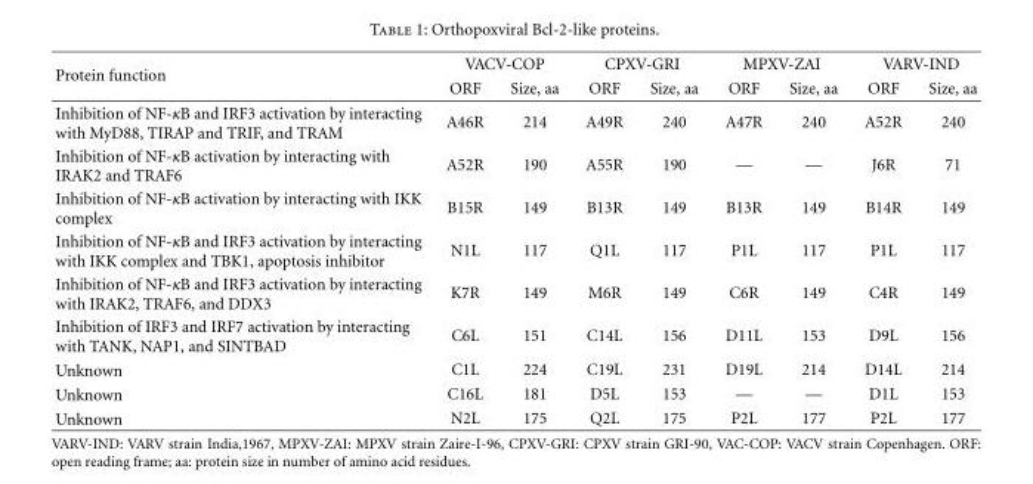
<table><thead><tr><td rowspan="2">Protein function</td><td colspan="2">VACV-COP</td><td colspan="2">CPXV-GRI</td><td colspan="2">MPXV-ZAI</td><td colspan="2">VARV-IND</td></tr><tr><td>ORF</td><td>Size, aa</td><td>ORF</td><td>Size, aa</td><td>ORF</td><td>Size, aa</td><td>ORF</td><td>Size, aa</td></tr></thead><tbody><tr><td>Inhibition of NF-κB and IRF3 activation by interacting with MyD88, TIRAP and TRIF, and TRAM</td><td>A46R</td><td>214</td><td>A49R</td><td>240</td><td>A47R</td><td>240</td><td>A52R</td><td>240</td></tr><tr><td>Inhibition of NF-κB activation by interacting with IRAK2 and TRAF6</td><td>A52R</td><td>190</td><td>A55R</td><td>190</td><td>—</td><td>—</td><td>J6R</td><td>71</td></tr><tr><td>Inhibition of NF-κB activation by interacting with IKK complex</td><td>B15R</td><td>149</td><td>B13R</td><td>149</td><td>B13R</td><td>149</td><td>B14R</td><td>149</td></tr><tr><td>Inhibition of NF-κB and IRF3 activation by interacting with IKK complex and TBK1, apoptosis inhibitor</td><td>N1L</td><td>117</td><td>Q1L</td><td>117</td><td>P1L</td><td>117</td><td>P1L</td><td>117</td></tr><tr><td>Inhibition of NF-κB and IRF3 activation by interacting with IRAK2, TRAF6, and DDX3</td><td>K7R</td><td>149</td><td>M6R</td><td>149</td><td>C6R</td><td>149</td><td>C4R</td><td>149</td></tr><tr><td>Inhibition of IRF3 and IRF7 activation by interacting with TANK, NAP1, and SINTBAD</td><td>C6L</td><td>151</td><td>C14L</td><td>156</td><td>D11L</td><td>153</td><td>D9L</td><td>156</td></tr><tr><td>Unknown</td><td>C1L</td><td>224</td><td>C19L</td><td>231</td><td>D19L</td><td>214</td><td>D14L</td><td>214</td></tr><tr><td>Unknown</td><td>C16L</td><td>181</td><td>D5L</td><td>153</td><td>—</td><td>—</td><td>D1L</td><td>153</td></tr><tr><td>Unknown</td><td>N2L</td><td>175</td><td>Q2L</td><td>175</td><td>P2L</td><td>177</td><td>P2L</td><td>177</td></tr></tbody></table>